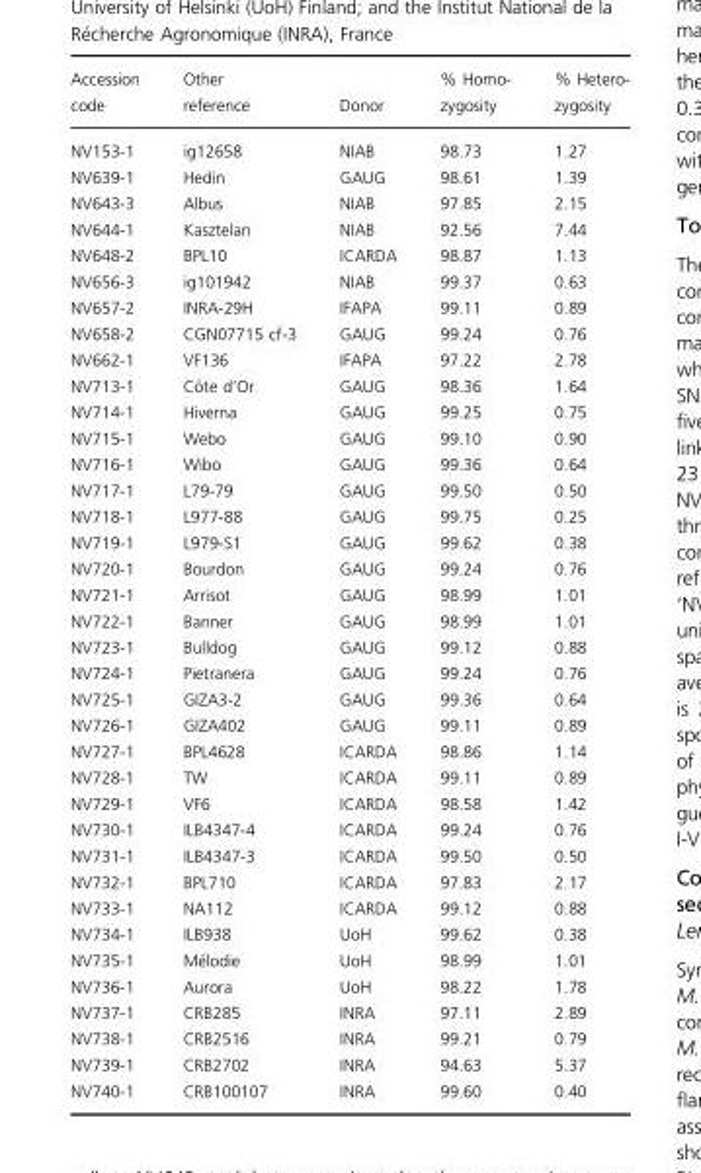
<table><thead><tr><td>Accession code</td><td>Other reference</td><td>Donor</td><td>% Homo- zygosity</td><td>% Hetero- zygosity</td></tr></thead><tbody><tr><td>NV153-1</td><td>ig12658</td><td>NIAB</td><td>98.73</td><td>1.27</td></tr><tr><td>NV639-1</td><td>Hedin</td><td>GAUG</td><td>98.61</td><td>1.39</td></tr><tr><td>NV643-3</td><td>Albus</td><td>NIAB</td><td>97.85</td><td>2.15</td></tr><tr><td>NV644-1</td><td>Kasztelan</td><td>NIAB</td><td>92.56</td><td>7.44</td></tr><tr><td>NV648-2</td><td>BPL10</td><td>ICARDA</td><td>98.87</td><td>1.13</td></tr><tr><td>NV656-3</td><td>ig101942</td><td>NIAB</td><td>99.37</td><td>0.63</td></tr><tr><td>NV657-2</td><td>INRA-29H</td><td>IFAPA</td><td>99.11</td><td>0.89</td></tr><tr><td>NV658-2</td><td>CGN07715 cf-3</td><td>GAUG</td><td>99.24</td><td>0.76</td></tr><tr><td>NV662-1</td><td>VF136</td><td>IFAPA</td><td>97.22</td><td>2.78</td></tr><tr><td>NV713-1</td><td>C^ote d’Or</td><td>GAUG</td><td>98.36</td><td>1.64</td></tr><tr><td>NV714-1</td><td>Hiverna</td><td>GAUG</td><td>99.25</td><td>0.75</td></tr><tr><td>NV715-1</td><td>Webo</td><td>GAUG</td><td>99.10</td><td>0.90</td></tr><tr><td>NV716-1</td><td>Wibo</td><td>GAUG</td><td>99.36</td><td>0.64</td></tr><tr><td>NV717-1</td><td>L79-79</td><td>GAUG</td><td>99.50</td><td>0.50</td></tr><tr><td>NV718-1</td><td>L977-88</td><td>GAUG</td><td>99.75</td><td>0.25</td></tr><tr><td>NV719-1</td><td>L979-S1</td><td>GAUG</td><td>99.62</td><td>0.38</td></tr><tr><td>NV720-1</td><td>Bourdon</td><td>GAUG</td><td>99.24</td><td>0.76</td></tr><tr><td>NV721-1</td><td>Arrisot</td><td>GAUG</td><td>98.99</td><td>1.01</td></tr><tr><td>NV722-1</td><td>Banner</td><td>GAUG</td><td>98.99</td><td>1.01</td></tr><tr><td>NV723-1</td><td>Bulldog</td><td>GAUG</td><td>99.12</td><td>0.88</td></tr><tr><td>NV724-1</td><td>Pietranera</td><td>GAUG</td><td>99.24</td><td>0.76</td></tr><tr><td>NV725-1</td><td>GIZA3-2</td><td>GAUG</td><td>99.36</td><td>0.64</td></tr><tr><td>NV726-1</td><td>GIZA402</td><td>GAUG</td><td>99.11</td><td>0.89</td></tr><tr><td>NV727-1</td><td>BPL4628</td><td>ICARDA</td><td>98.86</td><td>1.14</td></tr><tr><td>NV728-1</td><td>TW</td><td>ICARDA</td><td>99.11</td><td>0.89</td></tr><tr><td>NV729-1</td><td>VF6</td><td>ICARDA</td><td>98.58</td><td>1.42</td></tr><tr><td>NV730-1</td><td>ILB4347-4</td><td>ICARDA</td><td>99.24</td><td>0.76</td></tr><tr><td>NV731-1</td><td>ILB4347-3</td><td>ICARDA</td><td>99.50</td><td>0.50</td></tr><tr><td>NV732-1</td><td>BPL710</td><td>ICARDA</td><td>97.83</td><td>2.17</td></tr><tr><td>NV733-1</td><td>NA112</td><td>ICARDA</td><td>99.12</td><td>0.88</td></tr><tr><td>NV734-1</td><td>ILB938</td><td>UoH</td><td>99.62</td><td>0.38</td></tr><tr><td>NV735-1</td><td>M�elodie</td><td>UoH</td><td>98.99</td><td>1.01</td></tr><tr><td>NV736-1</td><td>Aurora</td><td>UoH</td><td>98.22</td><td>1.78</td></tr><tr><td>NV737-1</td><td>CRB285</td><td>INRA</td><td>97.11</td><td>2.89</td></tr><tr><td>NV738-1</td><td>CRB2516</td><td>INRA</td><td>99.21</td><td>0.79</td></tr><tr><td>NV739-1</td><td>CRB2702</td><td>INRA</td><td>94.63</td><td>5.37</td></tr><tr><td>NV740-1</td><td>CRB100107</td><td>INRA</td><td>99.60</td><td>0.40</td></tr></tbody></table>